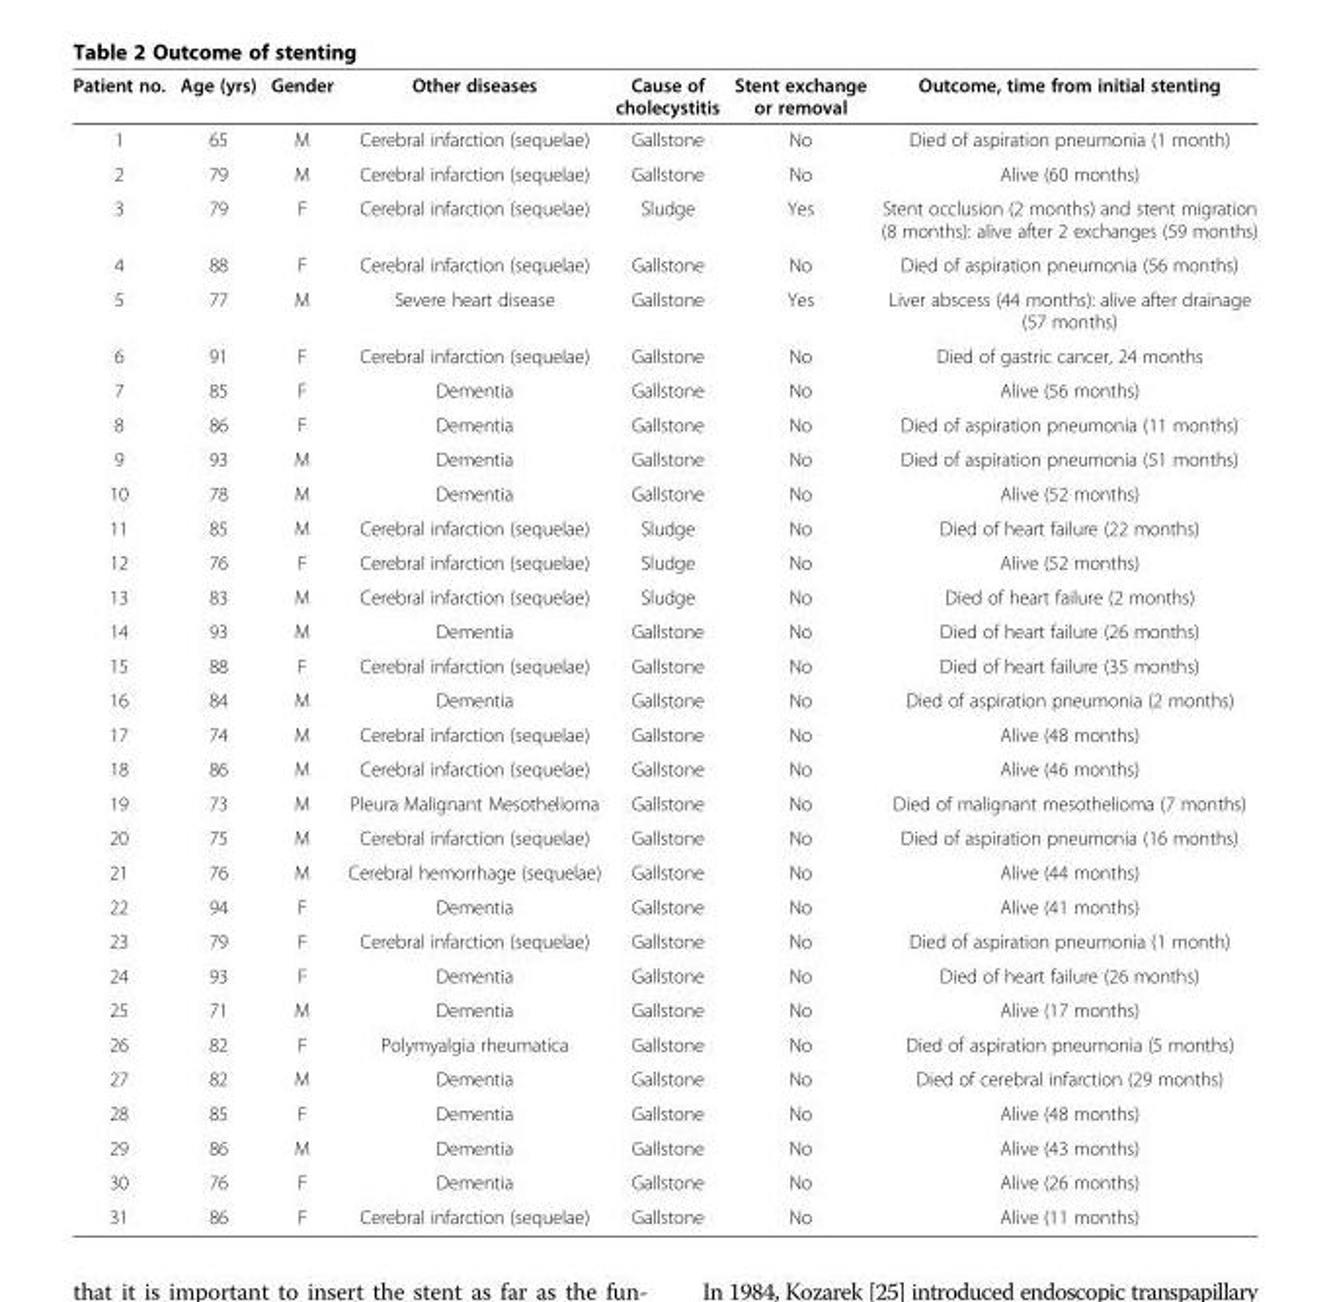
<table><thead><tr><td>Patient no.</td><td>Age (yrs)</td><td>Gender</td><td>Other diseases</td><td>Cause of cholecystitis</td><td>Stent exchange or removal</td><td>Outcome, time from initial stenting</td></tr></thead><tbody><tr><td>1</td><td>65</td><td>M</td><td>Cerebral infarction (sequelae)</td><td>Gallstone</td><td>No</td><td>Died of aspiration pneumonia (1 month)</td></tr><tr><td>2</td><td>79</td><td>M</td><td>Cerebral infarction (sequelae)</td><td>Gallstone</td><td>No</td><td>Alive (60 months)</td></tr><tr><td>3</td><td>79</td><td>F</td><td>Cerebral infarction (sequelae)</td><td>Sludge</td><td>Yes</td><td>Stent occlusion (2 months) and stent migration (8 months): alive after 2 exchanges (59 months)</td></tr><tr><td>4</td><td>88</td><td>F</td><td>Cerebral infarction (sequelae)</td><td>Gallstone</td><td>No</td><td>Died of aspiration pneumonia (56 months)</td></tr><tr><td>5</td><td>77</td><td>M</td><td>Severe heart disease</td><td>Gallstone</td><td>Yes</td><td>Liver abscess (44 months): alive after drainage (57 months)</td></tr><tr><td>6</td><td>91</td><td>F</td><td>Cerebral infarction (sequelae)</td><td>Gallstone</td><td>No</td><td>Died of gastric cancer, 24 months</td></tr><tr><td>7</td><td>85</td><td>F</td><td>Dementia</td><td>Gallstone</td><td>No</td><td>Alive (56 months)</td></tr><tr><td>8</td><td>86</td><td>F</td><td>Dementia</td><td>Gallstone</td><td>No</td><td>Died of aspiration pneumonia (11 months)</td></tr><tr><td>9</td><td>93</td><td>M</td><td>Dementia</td><td>Gallstone</td><td>No</td><td>Died of aspiration pneumonia (51 months)</td></tr><tr><td>10</td><td>78</td><td>M</td><td>Dementia</td><td>Gallstone</td><td>No</td><td>Alive (52 months)</td></tr><tr><td>11</td><td>85</td><td>M</td><td>Cerebral infarction (sequelae)</td><td>Sludge</td><td>No</td><td>Died of heart failure (22 months)</td></tr><tr><td>12</td><td>76</td><td>F</td><td>Cerebral infarction (sequelae)</td><td>Sludge</td><td>No</td><td>Alive (52 months)</td></tr><tr><td>13</td><td>83</td><td>M</td><td>Cerebral infarction (sequelae)</td><td>Sludge</td><td>No</td><td>Died of heart failure (2 months)</td></tr><tr><td>14</td><td>93</td><td>M</td><td>Dementia</td><td>Gallstone</td><td>No</td><td>Died of heart failure (26 months)</td></tr><tr><td>15</td><td>88</td><td>F</td><td>Cerebral infarction (sequelae)</td><td>Gallstone</td><td>No</td><td>Died of heart failure (35 months)</td></tr><tr><td>16</td><td>84</td><td>M</td><td>Dementia</td><td>Gallstone</td><td>No</td><td>Died of aspiration pneumonia (2 months)</td></tr><tr><td>17</td><td>74</td><td>M</td><td>Cerebral infarction (sequelae)</td><td>Gallstone</td><td>No</td><td>Alive (48 months)</td></tr><tr><td>18</td><td>86</td><td>M</td><td>Cerebral infarction (sequelae)</td><td>Gallstone</td><td>No</td><td>Alive (46 months)</td></tr><tr><td>19</td><td>73</td><td>M</td><td>Pleura Malignant Mesothelioma</td><td>Gallstone</td><td>No</td><td>Died of malignant mesothelioma (7 months)</td></tr><tr><td>20</td><td>75</td><td>M</td><td>Cerebral infarction (sequelae)</td><td>Gallstone</td><td>No</td><td>Died of aspiration pneumonia (16 months)</td></tr><tr><td>21</td><td>76</td><td>M</td><td>Cerebral hemorrhage (sequelae)</td><td>Gallstone</td><td>No</td><td>Alive (44 months)</td></tr><tr><td>22</td><td>94</td><td>F</td><td>Dementia</td><td>Gallstone</td><td>No</td><td>Alive (41 months)</td></tr><tr><td>23</td><td>79</td><td>F</td><td>Cerebral infarction (sequelae)</td><td>Gallstone</td><td>No</td><td>Died of aspiration pneumonia (1 month)</td></tr><tr><td>24</td><td>93</td><td>F</td><td>Dementia</td><td>Gallstone</td><td>No</td><td>Died of heart failure (26 months)</td></tr><tr><td>25</td><td>71</td><td>M</td><td>Dementia</td><td>Gallstone</td><td>No</td><td>Alive (17 months)</td></tr><tr><td>26</td><td>82</td><td>F</td><td>Polymyalgia rheumatica</td><td>Gallstone</td><td>No</td><td>Died of aspiration pneumonia (5 months)</td></tr><tr><td>27</td><td>82</td><td>M</td><td>Dementia</td><td>Gallstone</td><td>No</td><td>Died of cerebral infarction (29 months)</td></tr><tr><td>28</td><td>85</td><td>F</td><td>Dementia</td><td>Gallstone</td><td>No</td><td>Alive (48 months)</td></tr><tr><td>29</td><td>86</td><td>M</td><td>Dementia</td><td>Gallstone</td><td>No</td><td>Alive (43 months)</td></tr><tr><td>30</td><td>76</td><td>F</td><td>Dementia</td><td>Gallstone</td><td>No</td><td>Alive (26 months)</td></tr><tr><td>31</td><td>86</td><td>F</td><td>Cerebral infarction (sequelae)</td><td>Gallstone</td><td>No</td><td>Alive (11 months)</td></tr></tbody></table>